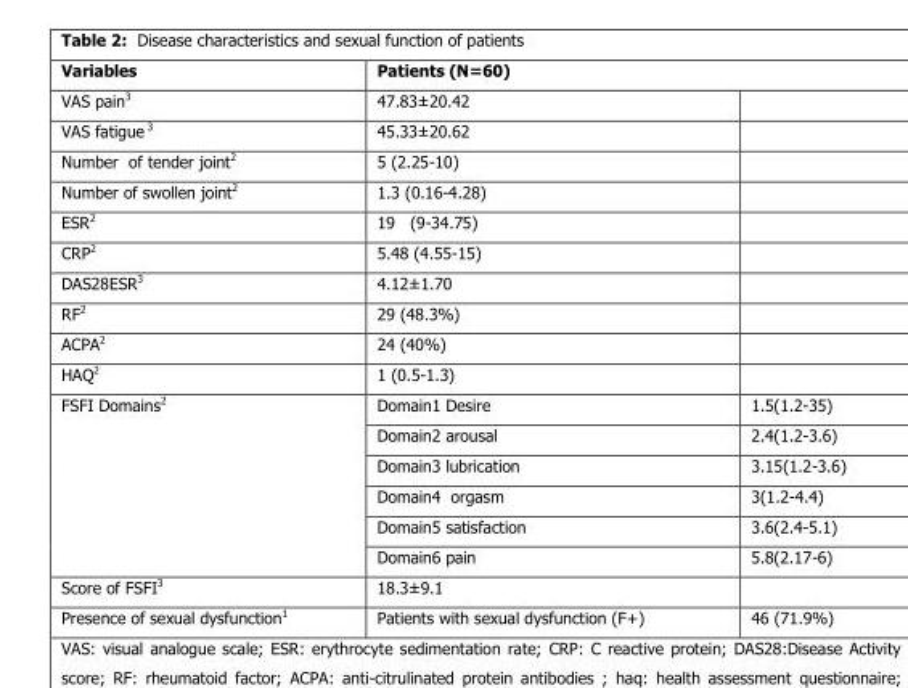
<table><thead><tr><td rowspan="2">Variables VAS pain<sup>3</sup></td><td colspan="2">Patients (N=60)</td></tr><tr><td>47.83±20.42</td><td></td></tr></thead><tbody><tr><td>VAS fatigue 3</td><td>45.33±20.62</td><td></td></tr><tr><td>Number of tender joint<sup>2</sup></td><td>5 (2.25-10)</td><td></td></tr><tr><td>Number of swollen joint<sup>2</sup></td><td>1.3 (0.16-4.28)</td><td></td></tr><tr><td>ESR<sup>2</sup></td><td>19 (9-34.75)</td><td></td></tr><tr><td>CRP<sup>2</sup></td><td>5.48 (4.55-15)</td><td></td></tr><tr><td>DAS28ESR<sup>3</sup></td><td>4.12±1.70</td><td></td></tr><tr><td>RF<sup>2</sup></td><td>29 (48.3%)</td><td></td></tr><tr><td>ACPA<sup>2</sup></td><td>24 (40%)</td><td></td></tr><tr><td>HAQ<sup>2</sup></td><td>1 (0.5-1.3)</td><td></td></tr><tr><td rowspan="6">FSFI Domains<sup>2</sup></td><td>Domain1 Desire</td><td>1.5(1.2-35)</td></tr><tr><td>Domain2 arousal</td><td>2.4(1.2-3.6)</td></tr><tr><td>Domain3 lubrication</td><td>3.15(1.2-3.6)</td></tr><tr><td>Domain4 orgasm</td><td>3(1.2-4.4)</td></tr><tr><td>Domain5 satisfaction</td><td>3.6(2.4-5.1)</td></tr><tr><td>Domain6 pain</td><td>5.8(2.17-6)</td></tr><tr><td>Score of FSFI<sup>3</sup></td><td>18.3±9.1</td><td></td></tr><tr><td>Presence of sexual dysfunction<sup>1</sup></td><td>Patients with sexual dysfunction (F+)</td><td>46 (71.9%)</td></tr></tbody></table>